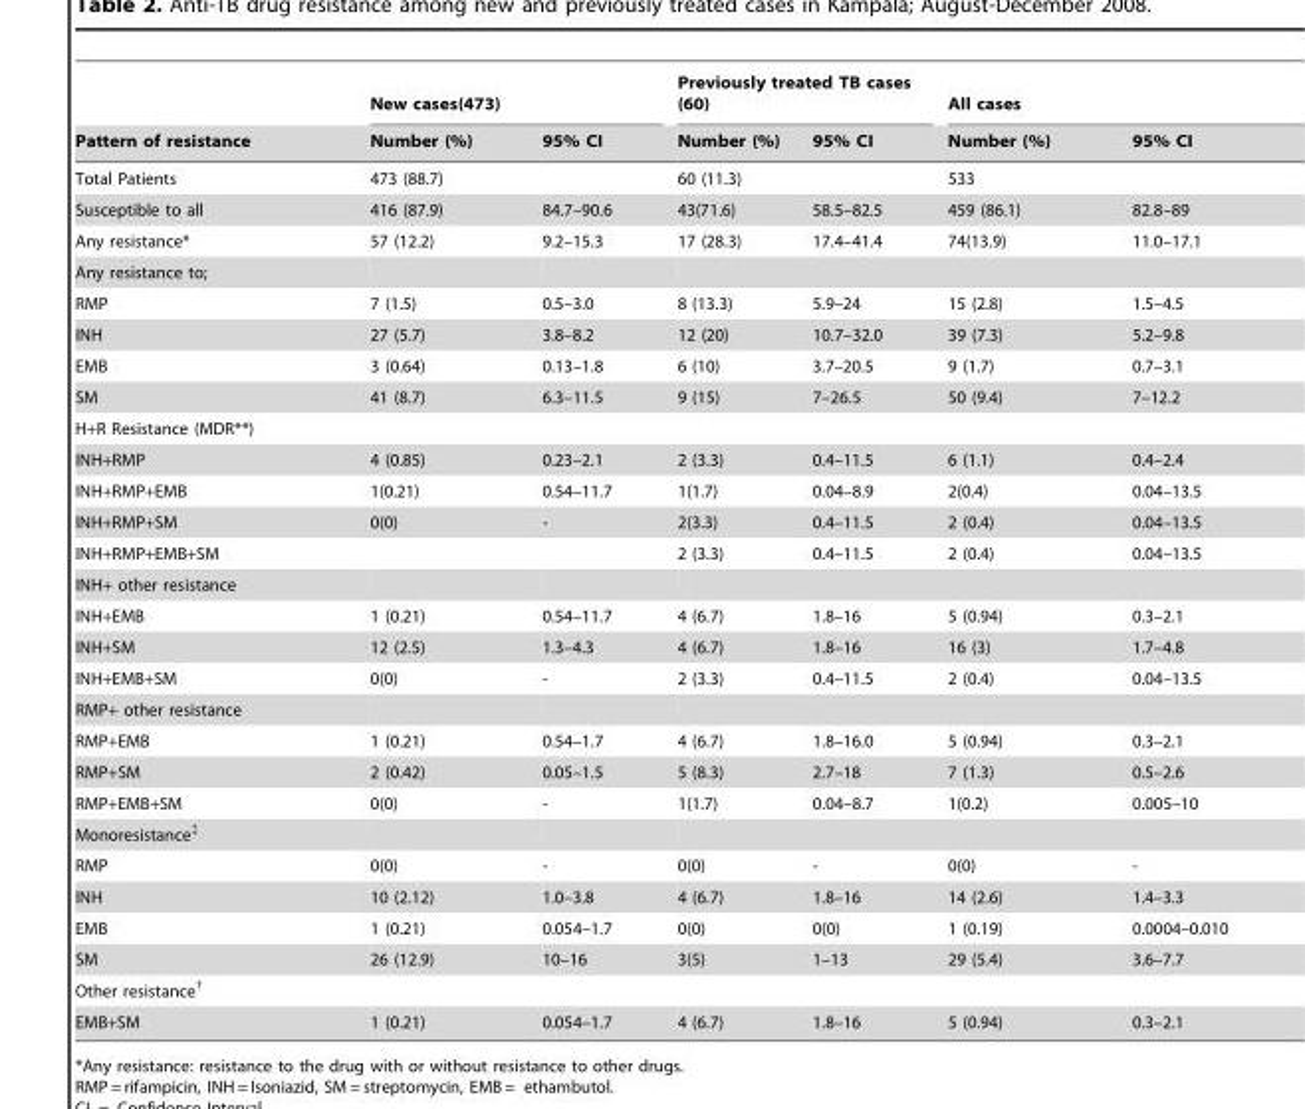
<table><thead><tr><td rowspan="2">Pattern of resistance</td><td colspan="2">New cases(473)</td><td colspan="2">Previously treated TB cases (60)</td><td colspan="2">All cases</td></tr><tr><td>Number (%)</td><td>95% CI</td><td>Number (%)</td><td>95% CI</td><td>Number (%)</td><td>95% CI</td></tr></thead><tbody><tr><td>Total Patients</td><td>473 (88.7)</td><td></td><td>60 (11.3)</td><td></td><td>533</td><td></td></tr><tr><td>Susceptible to all</td><td>416 (87.9)</td><td>84.7–90.6</td><td>43(71.6)</td><td>58.5–82.5</td><td>459 (86.1)</td><td>82.8–89</td></tr><tr><td>Any resistance*</td><td>57 (12.2)</td><td>9.2–15.3</td><td>17 (28.3)</td><td>17.4–41.4</td><td>74(13.9)</td><td>11.0–17.1</td></tr><tr><td colspan="7">Any resistance to;</td></tr><tr><td>RMP</td><td>7 (1.5)</td><td>0.5–3.0</td><td>8 (13.3)</td><td>5.9–24</td><td>15 (2.8)</td><td>1.5–4.5</td></tr><tr><td>INH</td><td>27 (5.7)</td><td>3.8–8.2</td><td>12 (20)</td><td>10.7–32.0</td><td>39 (7.3)</td><td>5.2–9.8</td></tr><tr><td>EMB</td><td>3 (0.64)</td><td>0.13–1.8</td><td>6 (10)</td><td>3.7–20.5</td><td>9 (1.7)</td><td>0.7–3.1</td></tr><tr><td>SM</td><td>41 (8.7)</td><td>6.3–11.5</td><td>9 (15)</td><td>7–26.5</td><td>50 (9.4)</td><td>7–12.2</td></tr><tr><td colspan="7">H+R Resistance (MDR**)</td></tr><tr><td>INH+RMP</td><td>4 (0.85)</td><td>0.23–2.1</td><td>2 (3.3)</td><td>0.4–11.5</td><td>6 (1.1)</td><td>0.4–2.4</td></tr><tr><td>INH+RMP+EMB</td><td>1(0.21)</td><td>0.54–11.7</td><td>1(1.7)</td><td>0.04–8.9</td><td>2(0.4)</td><td>0.04–13.5</td></tr><tr><td>INH+RMP+SM</td><td>0(0)</td><td>-</td><td>2(3.3)</td><td>0.4–11.5</td><td>2 (0.4)</td><td>0.04–13.5</td></tr><tr><td>INH+RMP+EMB+SM</td><td></td><td></td><td>2 (3.3)</td><td>0.4–11.5</td><td>2 (0.4)</td><td>0.04–13.5</td></tr><tr><td colspan="7">INH+ other resistance</td></tr><tr><td>INH+EMB</td><td>1 (0.21)</td><td>0.54–11.7</td><td>4 (6.7)</td><td>1.8–16</td><td>5 (0.94)</td><td>0.3–2.1</td></tr><tr><td>INH+SM</td><td>12 (2.5)</td><td>1.3–4.3</td><td>4 (6.7)</td><td>1.8–16</td><td>16 (3)</td><td>1.7–4.8</td></tr><tr><td>INH+EMB+SM</td><td>0(0)</td><td>-</td><td>2 (3.3)</td><td>0.4–11.5</td><td>2 (0.4)</td><td>0.04–13.5</td></tr><tr><td colspan="7">RMP+ other resistance</td></tr><tr><td>RMP+EMB</td><td>1 (0.21)</td><td>0.54–1.7</td><td>4 (6.7)</td><td>1.8–16.0</td><td>5 (0.94)</td><td>0.3–2.1</td></tr><tr><td>RMP+SM</td><td>2 (0.42)</td><td>0.05–1.5</td><td>5 (8.3)</td><td>2.7–18</td><td>7 (1.3)</td><td>0.5–2.6</td></tr><tr><td>RMP+EMB+SM</td><td>0(0)</td><td>-</td><td>1(1.7)</td><td>0.04–8.7</td><td>1(0.2)</td><td>0.005–10</td></tr><tr><td colspan="7">Monoresistance‡</td></tr><tr><td>RMP</td><td>0(0)</td><td>-</td><td>0(0)</td><td>-</td><td>0(0)</td><td>-</td></tr><tr><td>INH</td><td>10 (2.12)</td><td>1.0–3.8</td><td>4 (6.7)</td><td>1.8–16</td><td>14 (2.6)</td><td>1.4–3.3</td></tr><tr><td>EMB</td><td>1 (0.21)</td><td>0.054–1.7</td><td>0(0)</td><td>0(0)</td><td>1 (0.19)</td><td>0.0004–0.010</td></tr><tr><td>SM</td><td>26 (12.9)</td><td>10–16</td><td>3(5)</td><td>1–13</td><td>29 (5.4)</td><td>3.6–7.7</td></tr><tr><td colspan="7">Other resistance†</td></tr><tr><td>EMB+SM</td><td>1 (0.21)</td><td>0.054–1.7</td><td>4 (6.7)</td><td>1.8–16</td><td>5 (0.94)</td><td>0.3–2.1</td></tr></tbody></table>